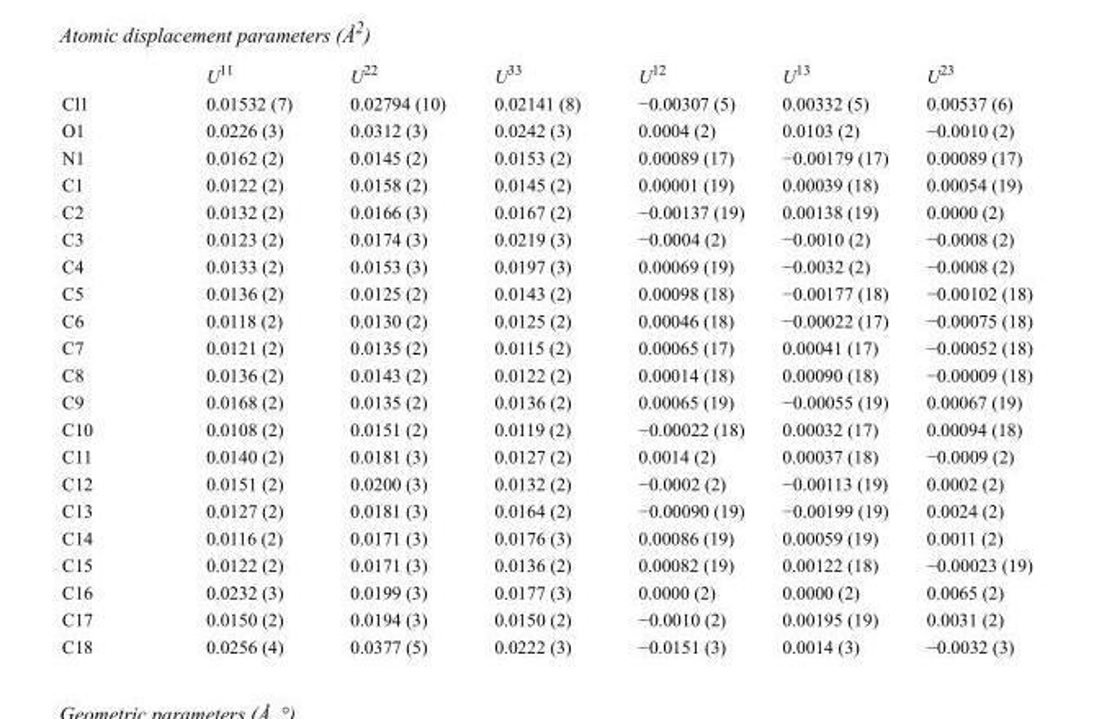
<table><thead><tr><td></td><td>U<sup>11</sup></td><td>U<sup>22</sup></td><td>U<sup>33</sup></td><td>U<sup>12</sup></td><td>U<sup>13</sup></td><td>U<sup>23</sup></td></tr></thead><tbody><tr><td>Cl1</td><td>0.01532 (7)</td><td>0.02794 (10)</td><td>0.02141 (8)</td><td>−0.00307 (5)</td><td>0.00332 (5)</td><td>0.00537 (6)</td></tr><tr><td>O1</td><td>0.0226 (3)</td><td>0.0312 (3)</td><td>0.0242 (3)</td><td>0.0004 (2)</td><td>0.0103 (2)</td><td>−0.0010 (2)</td></tr><tr><td>N1</td><td>0.0162 (2)</td><td>0.0145 (2)</td><td>0.0153 (2)</td><td>0.00089 (17)</td><td>−0.00179 (17)</td><td>0.00089 (17)</td></tr><tr><td>C1</td><td>0.0122 (2)</td><td>0.0158 (2)</td><td>0.0145 (2)</td><td>0.00001 (19)</td><td>0.00039 (18)</td><td>0.00054 (19)</td></tr><tr><td>C2</td><td>0.0132 (2)</td><td>0.0166 (3)</td><td>0.0167 (2)</td><td>−0.00137 (19)</td><td>0.00138 (19)</td><td>0.0000 (2)</td></tr><tr><td>C3</td><td>0.0123 (2)</td><td>0.0174 (3)</td><td>0.0219 (3)</td><td>−0.0004 (2)</td><td>−0.0010 (2)</td><td>−0.0008 (2)</td></tr><tr><td>C4</td><td>0.0133 (2)</td><td>0.0153 (3)</td><td>0.0197 (3)</td><td>0.00069 (19)</td><td>−0.0032 (2)</td><td>−0.0008 (2)</td></tr><tr><td>C5</td><td>0.0136 (2)</td><td>0.0125 (2)</td><td>0.0143 (2)</td><td>0.00098 (18)</td><td>−0.00177 (18)</td><td>−0.00102 (18)</td></tr><tr><td>C6</td><td>0.0118 (2)</td><td>0.0130 (2)</td><td>0.0125 (2)</td><td>0.00046 (18)</td><td>−0.00022 (17)</td><td>−0.00075 (18)</td></tr><tr><td>C7</td><td>0.0121 (2)</td><td>0.0135 (2)</td><td>0.0115 (2)</td><td>0.00065 (17)</td><td>0.00041 (17)</td><td>−0.00052 (18)</td></tr><tr><td>C8</td><td>0.0136 (2)</td><td>0.0143 (2)</td><td>0.0122 (2)</td><td>0.00014 (18)</td><td>0.00090 (18)</td><td>−0.00009 (18)</td></tr><tr><td>C9</td><td>0.0168 (2)</td><td>0.0135 (2)</td><td>0.0136 (2)</td><td>0.00065 (19)</td><td>−0.00055 (19)</td><td>0.00067 (19)</td></tr><tr><td>C10</td><td>0.0108 (2)</td><td>0.0151 (2)</td><td>0.0119 (2)</td><td>−0.00022 (18)</td><td>0.00032 (17)</td><td>0.00094 (18)</td></tr><tr><td>C11</td><td>0.0140 (2)</td><td>0.0181 (3)</td><td>0.0127 (2)</td><td>0.0014 (2)</td><td>0.00037 (18)</td><td>−0.0009 (2)</td></tr><tr><td>C12</td><td>0.0151 (2)</td><td>0.0200 (3)</td><td>0.0132 (2)</td><td>−0.0002 (2)</td><td>−0.00113 (19)</td><td>0.0002 (2)</td></tr><tr><td>C13</td><td>0.0127 (2)</td><td>0.0181 (3)</td><td>0.0164 (2)</td><td>−0.00090 (19)</td><td>−0.00199 (19)</td><td>0.0024 (2)</td></tr><tr><td>C14</td><td>0.0116 (2)</td><td>0.0171 (3)</td><td>0.0176 (3)</td><td>0.00086 (19)</td><td>0.00059 (19)</td><td>0.0011 (2)</td></tr><tr><td>C15</td><td>0.0122 (2)</td><td>0.0171 (3)</td><td>0.0136 (2)</td><td>0.00082 (19)</td><td>0.00122 (18)</td><td>−0.00023 (19)</td></tr><tr><td>C16</td><td>0.0232 (3)</td><td>0.0199 (3)</td><td>0.0177 (3)</td><td>0.0000 (2)</td><td>0.0000 (2)</td><td>0.0065 (2)</td></tr><tr><td>C17</td><td>0.0150 (2)</td><td>0.0194 (3)</td><td>0.0150 (2)</td><td>−0.0010 (2)</td><td>0.00195 (19)</td><td>0.0031 (2)</td></tr><tr><td>C18</td><td>0.0256 (4)</td><td>0.0377 (5)</td><td>0.0222 (3)</td><td>−0.0151 (3)</td><td>0.0014 (3)</td><td>−0.0032 (3)</td></tr></tbody></table>